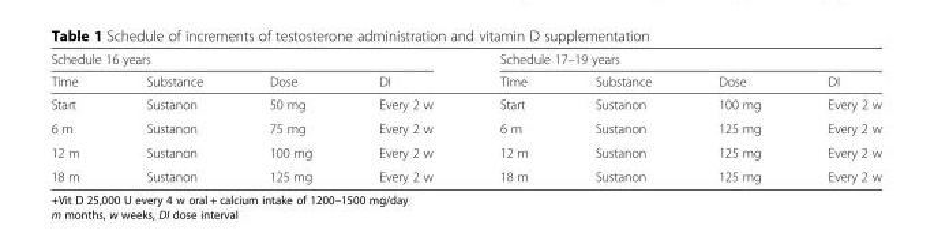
<table><thead><tr><td colspan="4">Schedule 16 years</td><td colspan="4">Schedule 17–19 years</td></tr><tr><td>Time</td><td>Substance</td><td>Dose</td><td>DI</td><td>Time</td><td>Substance</td><td>Dose</td><td>DI</td></tr></thead><tbody><tr><td>Start</td><td>Sustanon</td><td>50 mg</td><td>Every 2 w</td><td>Start</td><td>Sustanon</td><td>100 mg</td><td>Every 2 w</td></tr><tr><td>6 m</td><td>Sustanon</td><td>75 mg</td><td>Every 2 w</td><td>6 m</td><td>Sustanon</td><td>125 mg</td><td>Every 2 w</td></tr><tr><td>12 m</td><td>Sustanon</td><td>100 mg</td><td>Every 2 w</td><td>12 m</td><td>Sustanon</td><td>125 mg</td><td>Every 2 w</td></tr><tr><td>18 m</td><td>Sustanon</td><td>125 mg</td><td>Every 2 w</td><td>18 m</td><td>Sustanon</td><td>125 mg</td><td>Every 2 w</td></tr></tbody></table>